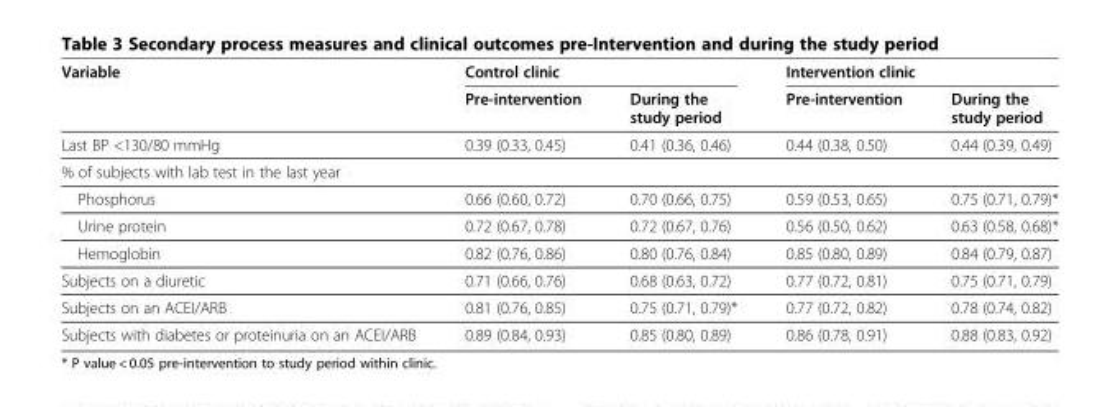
<table><thead><tr><td rowspan="2">Variable</td><td colspan="2">Control clinic</td><td colspan="2">Intervention clinic</td></tr><tr><td>Pre-intervention</td><td>During the study period</td><td>Pre-intervention</td><td>During the study period</td></tr></thead><tbody><tr><td>Last BP &lt;130/80 mmHg</td><td>0.39 (0.33, 0.45)</td><td>0.41 (0.36, 0.46)</td><td>0.44 (0.38, 0.50)</td><td>0.44 (0.39, 0.49)</td></tr><tr><td colspan="5">% of subjects with lab test in the last year</td></tr><tr><td>Phosphorus</td><td>0.66 (0.60, 0.72)</td><td>0.70 (0.66, 0.75)</td><td>0.59 (0.53, 0.65)</td><td>0.75 (0.71, 0.79)*</td></tr><tr><td>Urine protein</td><td>0.72 (0.67, 0.78)</td><td>0.72 (0.67, 0.76)</td><td>0.56 (0.50, 0.62)</td><td>0.63 (0.58, 0.68)*</td></tr><tr><td>Hemoglobin</td><td>0.82 (0.76, 0.86)</td><td>0.80 (0.76, 0.84)</td><td>0.85 (0.80, 0.89)</td><td>0.84 (0.79, 0.87)</td></tr><tr><td>Subjects on a diuretic</td><td>0.71 (0.66, 0.76)</td><td>0.68 (0.63, 0.72)</td><td>0.77 (0.72, 0.81)</td><td>0.75 (0.71, 0.79)</td></tr><tr><td>Subjects on an ACEI/ARB</td><td>0.81 (0.76, 0.85)</td><td>0.75 (0.71, 0.79)*</td><td>0.77 (0.72, 0.82)</td><td>0.78 (0.74, 0.82)</td></tr><tr><td>Subjects with diabetes or proteinuria on an ACEI/ARB</td><td>0.89 (0.84, 0.93)</td><td>0.85 (0.80, 0.89)</td><td>0.86 (0.78, 0.91)</td><td>0.88 (0.83, 0.92)</td></tr></tbody></table>